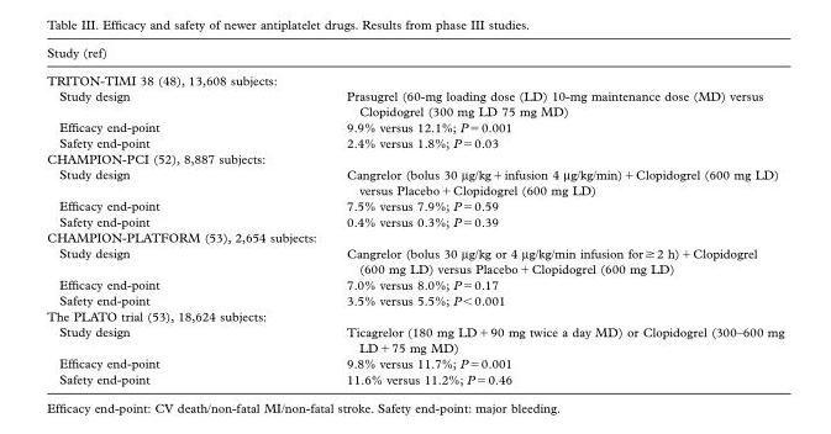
<table><thead><tr><td>Study (ref)</td><td></td></tr></thead><tbody><tr><td colspan="2">TRITON-TIMI 38 (48), 13,608 subjects:</td></tr><tr><td>Study design</td><td>Prasugrel (60-mg loading dose (LD) 10-mg maintenance dose (MD) versus Clopidogrel (300 mg LD 75 mg MD)</td></tr><tr><td>Effi cacy end-point</td><td>9.9% versus 12.1%; P = 0.001</td></tr><tr><td>Safety end-point</td><td>2.4% versus 1.8%; P = 0.03</td></tr><tr><td colspan="2">CHAMPION-PCI (52), 8,887 subjects:</td></tr><tr><td>Study design</td><td>Cangrelor (bolus 30 μ g/kg + infusion 4 μ g/kg/min) + Clopidogrel (600 mg LD) versus Placebo + Clopidogrel (600 mg LD)</td></tr><tr><td>Effi cacy end-point</td><td>7.5% versus 7.9%; P = 0.59</td></tr><tr><td>Safety end-point</td><td>0.4% versus 0.3%; P = 0.39</td></tr><tr><td colspan="2">CHAMPION-PLATFORM (53), 2,654 subjects:</td></tr><tr><td>Study design</td><td>Cangrelor (bolus 30 μ g/kg or 4 μ g/kg/min infusion for a 2 h) + Clopidogrel (600 mg LD) versus Placebo + Clopidogrel (600 mg LD)</td></tr><tr><td>Effi cacy end-point</td><td>7.0% versus 8.0%; P = 0.17</td></tr><tr><td>Safety end-point</td><td>3.5% versus 5.5%; P &lt; 0.001</td></tr><tr><td colspan="2">The PLATO trial (53), 18,624 subjects:</td></tr><tr><td>Study design</td><td>Ticagrelor (180 mg LD + 90 mg twice a day MD) or Clopidogrel (300 – 600 mg LD + 75 mg MD)</td></tr><tr><td>Effi cacy end-point</td><td>9.8% versus 11.7%; P = 0.001</td></tr><tr><td>Safety end-point</td><td>11.6% versus 11.2%; P = 0.46</td></tr></tbody></table>